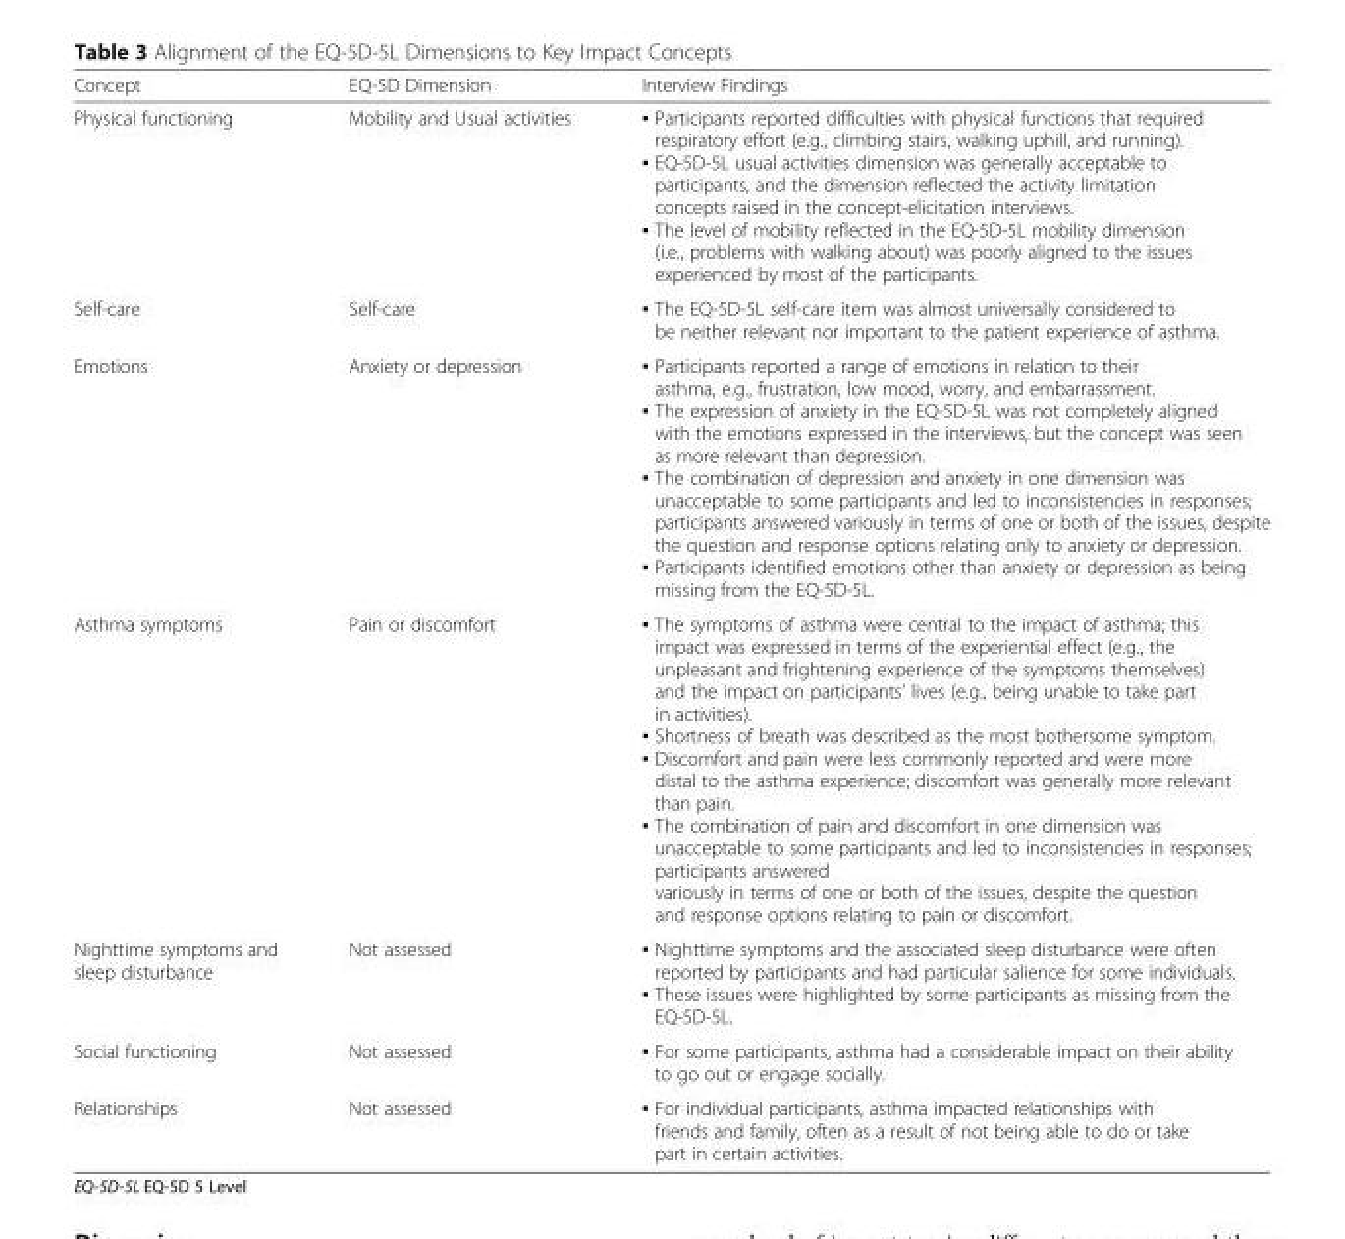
<table><thead><tr><td>Concept</td><td>EQ-5D Dimension</td><td>Interview Findings</td></tr></thead><tbody><tr><td>Physical functioning</td><td>Mobility and Usual activities</td><td>▪ Participants reported difficulties with physical functions that required respiratory effort (e.g., climbing stairs, walking uphill, and running). ▪ EQ-5D-5L usual activities dimension was generally acceptable to participants, and the dimension reflected the activity limitation concepts raised in the concept-elicitation interviews. ▪ The level of mobility reflected in the EQ-5D-5L mobility dimension (i.e., problems with walking about) was poorly aligned to the issues experienced by most of the participants.</td></tr><tr><td>Self-care</td><td>Self-care</td><td>▪ The EQ-5D-5L self-care item was almost universally considered to be neither relevant nor important to the patient experience of asthma.</td></tr><tr><td>Emotions</td><td>Anxiety or depression</td><td>▪ Participants reported a range of emotions in relation to their asthma, e.g., frustration, low mood, worry, and embarrassment. ▪ The expression of anxiety in the EQ-5D-5L was not completely aligned with the emotions expressed in the interviews, but the concept was seen as more relevant than depression. ▪ The combination of depression and anxiety in one dimension was unacceptable to some participants and led to inconsistencies in responses; participants answered variously in terms of one or both of the issues, despite the question and response options relating only to anxiety or depression. ▪ Participants identified emotions other than anxiety or depression as being missing from the EQ-5D-5L.</td></tr><tr><td>Asthma symptoms</td><td>Pain or discomfort</td><td>▪ The symptoms of asthma were central to the impact of asthma; this impact was expressed in terms of the experiential effect (e.g., the unpleasant and frightening experience of the symptoms themselves) and the impact on participants’ lives (e.g., being unable to take part in activities). ▪ Shortness of breath was described as the most bothersome symptom. ▪ Discomfort and pain were less commonly reported and were more distal to the asthma experience; discomfort was generally more relevant than pain. ▪ The combination of pain and discomfort in one dimension was unacceptable to some participants and led to inconsistencies in responses; participants answered variously in terms of one or both of the issues, despite the question and response options relating to pain or discomfort.</td></tr><tr><td>Nighttime symptoms and sleep disturbance</td><td>Not assessed</td><td>▪ Nighttime symptoms and the associated sleep disturbance were often reported by participants and had particular salience for some individuals. ▪ These issues were highlighted by some participants as missing from the EQ-5D-5L.</td></tr><tr><td>Social functioning</td><td>Not assessed</td><td>▪ For some participants, asthma had a considerable impact on their ability to go out or engage socially.</td></tr><tr><td>Relationships</td><td>Not assessed</td><td>▪ For individual participants, asthma impacted relationships with friends and family, often as a result of not being able to do or take part in certain activities.</td></tr></tbody></table>